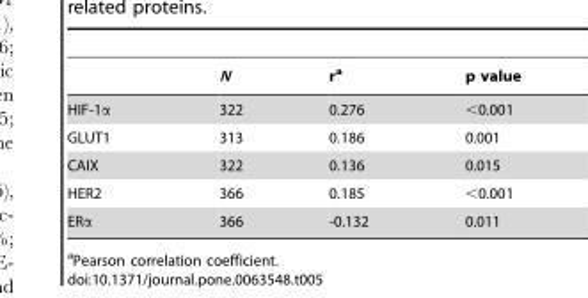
<table><thead><tr><td></td><td>N</td><td>r<sup>a</sup></td><td>p value</td></tr></thead><tbody><tr><td>HIF-1α</td><td>322</td><td>0.276</td><td>&lt;0.001</td></tr><tr><td>GLUT1</td><td>313</td><td>0.186</td><td>0.001</td></tr><tr><td>CAIX</td><td>322</td><td>0.136</td><td>0.015</td></tr><tr><td>HER2</td><td>366</td><td>0.185</td><td>&lt;0.001</td></tr><tr><td>ERα</td><td>366</td><td>-0.132</td><td>0.011</td></tr></tbody></table>